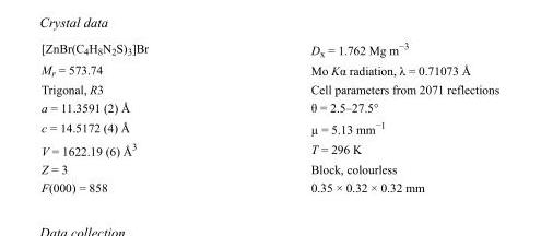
<table><tbody><tr><td>[ZnBr(C<sub>4</sub>H<sub>8</sub>N<sub>2</sub>S)<sub>3</sub>]Br</td><td>D<sub>x</sub> = 1.762 Mg m<sup>−3</sup></td></tr><tr><td>M<sub>r</sub> = 573.74</td><td>Mo Kα radiation, λ = 0.71073 Å</td></tr><tr><td>Trigonal, R3</td><td>Cell parameters from 2071 reflections</td></tr><tr><td>a = 11.3591 (2) Å</td><td>θ = 2.5–27.5°</td></tr><tr><td>c = 14.5172 (4) Å</td><td>µ = 5.13 mm<sup>−1</sup></td></tr><tr><td>V = 1622.19 (6) Å<sup>3</sup></td><td>T = 296 K</td></tr><tr><td>Z = 3</td><td>Block, colourless</td></tr><tr><td>F(000) = 858</td><td>0.35 × 0.32 × 0.32 mm</td></tr></tbody></table>